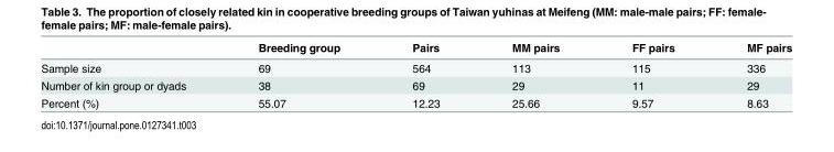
<table><thead><tr><td></td><td>Breeding group</td><td>Pairs</td><td>MM pairs</td><td>FF pairs</td><td>MF pairs</td></tr></thead><tbody><tr><td>Sample size</td><td>69</td><td>564</td><td>113</td><td>115</td><td>336</td></tr><tr><td>Number of kin group or dyads</td><td>38</td><td>69</td><td>29</td><td>11</td><td>29</td></tr><tr><td>Percent (%)</td><td>55.07</td><td>12.23</td><td>25.66</td><td>9.57</td><td>8.63</td></tr></tbody></table>